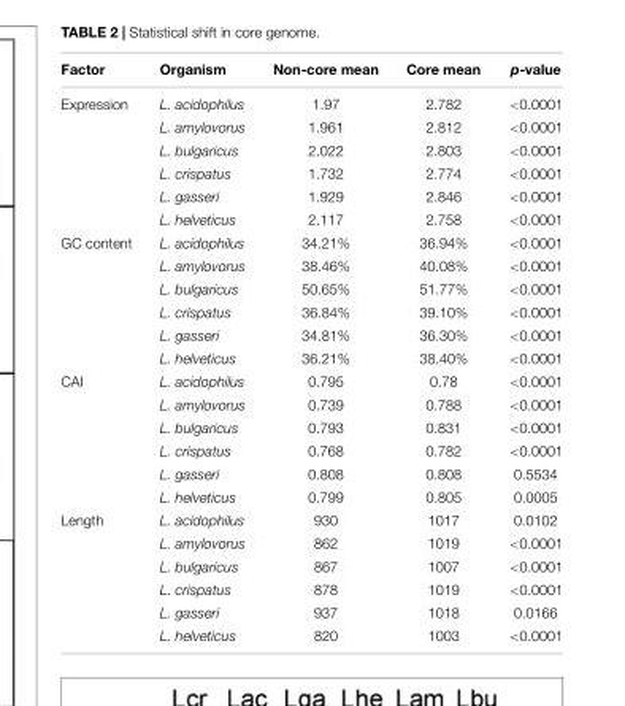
<table><thead><tr><td>Factor</td><td>Organism</td><td>Non-core mean</td><td>Core mean</td><td>p-value</td></tr></thead><tbody><tr><td rowspan="6">Expression</td><td>L. acidophilus</td><td>1.97</td><td>2.782</td><td>&lt;0.0001</td></tr><tr><td>L. amylovorus</td><td>1.961</td><td>2.812</td><td>&lt;0.0001</td></tr><tr><td>L. bulgaricus</td><td>2.022</td><td>2.803</td><td>&lt;0.0001</td></tr><tr><td>L. crispatus</td><td>1.732</td><td>2.774</td><td>&lt;0.0001</td></tr><tr><td>L. gasseri</td><td>1.929</td><td>2.846</td><td>&lt;0.0001</td></tr><tr><td>L. helveticus</td><td>2.117</td><td>2.758</td><td>&lt;0.0001</td></tr><tr><td rowspan="6">GC content</td><td>L. acidophilus</td><td>34.21%</td><td>36.94%</td><td>&lt;0.0001</td></tr><tr><td>L. amylovorus</td><td>38.46%</td><td>40.08%</td><td>&lt;0.0001</td></tr><tr><td>L. bulgaricus</td><td>50.65%</td><td>51.77%</td><td>&lt;0.0001</td></tr><tr><td>L. crispatus</td><td>36.84%</td><td>39.10%</td><td>&lt;0.0001</td></tr><tr><td>L. gasseri</td><td>34.81%</td><td>36.30%</td><td>&lt;0.0001</td></tr><tr><td>L. helveticus</td><td>36.21%</td><td>38.40%</td><td>&lt;0.0001</td></tr><tr><td rowspan="6">CAI</td><td>L. acidophilus</td><td>0.795</td><td>0.78</td><td>&lt;0.0001</td></tr><tr><td>L. amylovorus</td><td>0.739</td><td>0.788</td><td>&lt;0.0001</td></tr><tr><td>L. bulgaricus</td><td>0.793</td><td>0.831</td><td>&lt;0.0001</td></tr><tr><td>L. crispatus</td><td>0.768</td><td>0.782</td><td>&lt;0.0001</td></tr><tr><td>L. gasseri</td><td>0.808</td><td>0.808</td><td>0.5534</td></tr><tr><td>L. helveticus</td><td>0.799</td><td>0.805</td><td>0.0005</td></tr><tr><td rowspan="6">Length</td><td>L. acidophilus</td><td>930</td><td>1017</td><td>0.0102</td></tr><tr><td>L. amylovorus</td><td>862</td><td>1019</td><td>&lt;0.0001</td></tr><tr><td>L. bulgaricus</td><td>867</td><td>1007</td><td>&lt;0.0001</td></tr><tr><td>L. crispatus</td><td>878</td><td>1019</td><td>&lt;0.0001</td></tr><tr><td>L. gasseri</td><td>937</td><td>1018</td><td>0.0166</td></tr><tr><td>L. helveticus</td><td>820</td><td>1003</td><td>&lt;0.0001</td></tr></tbody></table>